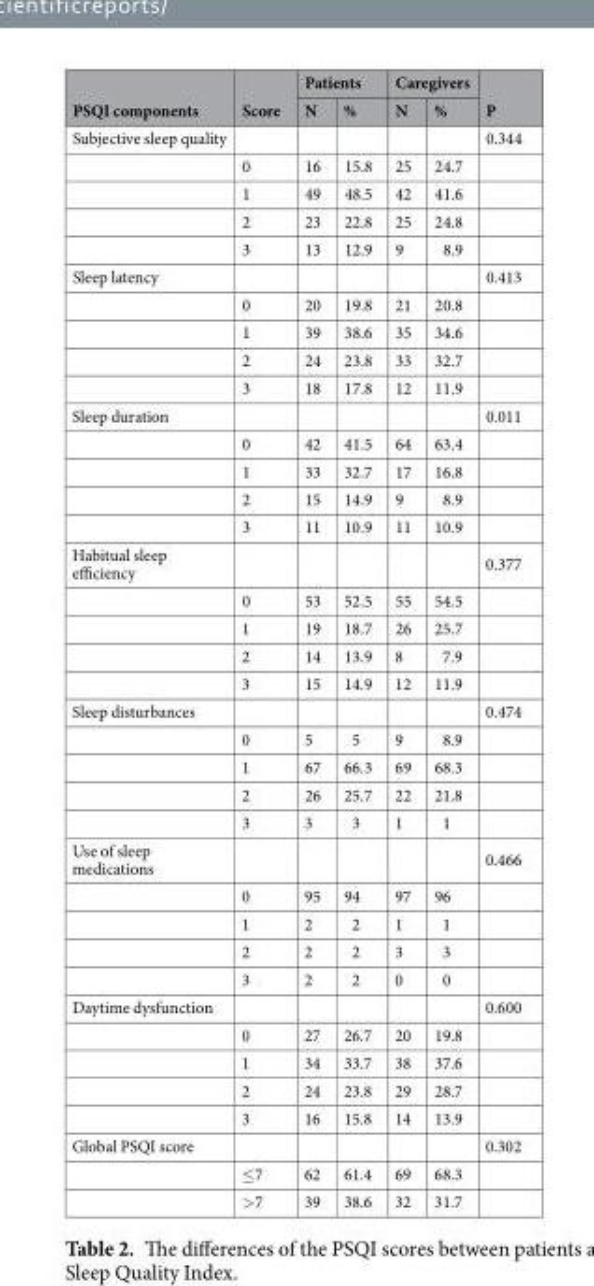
<table><thead><tr><td rowspan="2">PSQI components</td><td rowspan="2">Score</td><td colspan="2">Patients</td><td colspan="2">Caregivers</td><td rowspan="2">P</td></tr><tr><td>N</td><td>%</td><td>N</td><td>%</td></tr></thead><tbody><tr><td rowspan="5">Subjective sleep quality</td><td></td><td></td><td></td><td></td><td></td><td>0.344</td></tr><tr><td>0</td><td>16</td><td>15.8</td><td>25</td><td>24.7</td><td></td></tr><tr><td>1</td><td>49</td><td>48.5</td><td>42</td><td>41.6</td><td></td></tr><tr><td>2</td><td>23</td><td>22.8</td><td>25</td><td>24.8</td><td></td></tr><tr><td>3</td><td>13</td><td>12.9</td><td>9</td><td>8.9</td><td></td></tr><tr><td rowspan="5">Sleep latency</td><td></td><td></td><td></td><td></td><td></td><td>0.413</td></tr><tr><td>0</td><td>20</td><td>19.8</td><td>21</td><td>20.8</td><td></td></tr><tr><td>1</td><td>39</td><td>38.6</td><td>35</td><td>34.6</td><td></td></tr><tr><td>2</td><td>24</td><td>23.8</td><td>33</td><td>32.7</td><td></td></tr><tr><td>3</td><td>18</td><td>17.8</td><td>12</td><td>11.9</td><td></td></tr><tr><td rowspan="5">Sleep duration</td><td></td><td></td><td></td><td></td><td></td><td>0.011</td></tr><tr><td>0</td><td>42</td><td>41.5</td><td>64</td><td>63.4</td><td></td></tr><tr><td>1</td><td>33</td><td>32.7</td><td>17</td><td>16.8</td><td></td></tr><tr><td>2</td><td>15</td><td>14.9</td><td>9</td><td>8.9</td><td></td></tr><tr><td>3</td><td>11</td><td>10.9</td><td>11</td><td>10.9</td><td></td></tr><tr><td rowspan="5">Habitual sleep efficiency</td><td></td><td></td><td></td><td></td><td></td><td>0.377</td></tr><tr><td>0</td><td>53</td><td>52.5</td><td>55</td><td>54.5</td><td></td></tr><tr><td>1</td><td>19</td><td>18.7</td><td>26</td><td>25.7</td><td></td></tr><tr><td>2</td><td>14</td><td>13.9</td><td>8</td><td>7.9</td><td></td></tr><tr><td>3</td><td>15</td><td>14.9</td><td>12</td><td>11.9</td><td></td></tr><tr><td rowspan="5">Sleep disturbances</td><td></td><td></td><td></td><td></td><td></td><td>0.474</td></tr><tr><td>0</td><td>5</td><td>5</td><td>9</td><td>8.9</td><td></td></tr><tr><td>1</td><td>67</td><td>66.3</td><td>69</td><td>68.3</td><td></td></tr><tr><td>2</td><td>26</td><td>25.7</td><td>22</td><td>21.8</td><td></td></tr><tr><td>3</td><td>3</td><td>3</td><td>1</td><td>1</td><td></td></tr><tr><td rowspan="5">Use of sleep medications</td><td></td><td></td><td></td><td></td><td></td><td>0.466</td></tr><tr><td>0</td><td>95</td><td>94</td><td>97</td><td>96</td><td></td></tr><tr><td>1</td><td>2</td><td>2</td><td>1</td><td>1</td><td></td></tr><tr><td>2</td><td>2</td><td>2</td><td>3</td><td>3</td><td></td></tr><tr><td>3</td><td>2</td><td>2</td><td>0</td><td>0</td><td></td></tr><tr><td rowspan="5">Daytime dysfunction</td><td></td><td></td><td></td><td></td><td></td><td>0.600</td></tr><tr><td>0</td><td>27</td><td>26.7</td><td>20</td><td>19.8</td><td></td></tr><tr><td>1</td><td>34</td><td>33.7</td><td>38</td><td>37.6</td><td></td></tr><tr><td>2</td><td>24</td><td>23.8</td><td>29</td><td>28.7</td><td></td></tr><tr><td>3</td><td>16</td><td>15.8</td><td>14</td><td>13.9</td><td></td></tr><tr><td rowspan="3">Global PSQI score</td><td></td><td></td><td></td><td></td><td></td><td>0.302</td></tr><tr><td>≤7</td><td>62</td><td>61.4</td><td>69</td><td>68.3</td><td></td></tr><tr><td>&gt;7</td><td>39</td><td>38.6</td><td>32</td><td>31.7</td><td></td></tr></tbody></table>